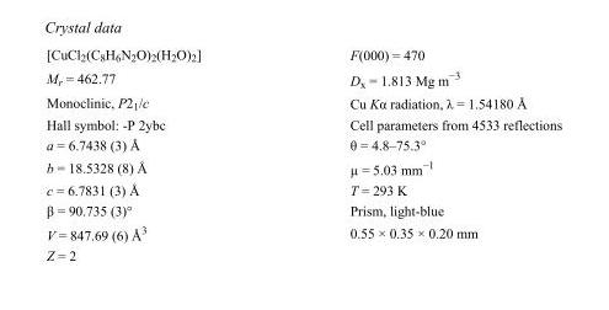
<table><tbody><tr><td>[CuCl<sub>2</sub>(C<sub>8</sub>H<sub>6</sub>N<sub>2</sub>O)<sub>2</sub>(H<sub>2</sub>O)<sub>2</sub>]</td><td>F(000) = 470</td></tr><tr><td>M<sub>r</sub> = 462.77</td><td>D<sub>x</sub> = 1.813 Mg m<sup>−3</sup></td></tr><tr><td>Monoclinic, P2<sub>1</sub>/c</td><td>Cu Kα radiation, λ = 1.54180 Å</td></tr><tr><td>Hall symbol: -P 2ybc</td><td>Cell parameters from 4533 reflections</td></tr><tr><td>a = 6.7438 (3) Å</td><td>θ = 4.8–75.3°</td></tr><tr><td>b = 18.5328 (8) Å</td><td>µ = 5.03 mm<sup>−1</sup></td></tr><tr><td>c = 6.7831 (3) Å</td><td>T = 293 K</td></tr><tr><td>β = 90.735 (3)°</td><td>Prism, light-blue</td></tr><tr><td>V = 847.69 (6) Å<sup>3</sup></td><td>0.55 × 0.35 × 0.20 mm</td></tr><tr><td>Z = 2</td><td></td></tr></tbody></table>